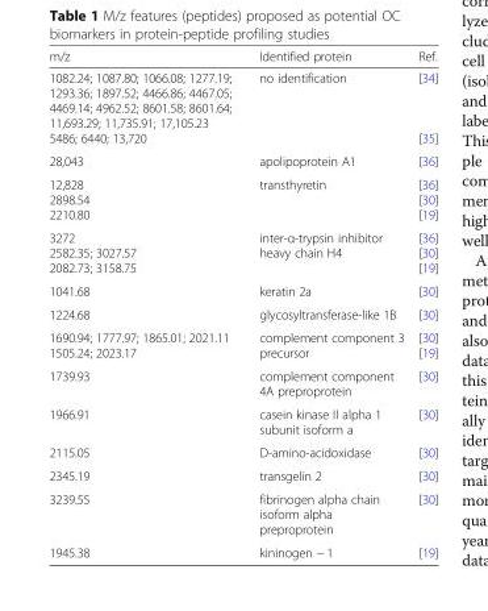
<table><thead><tr><td>m/z</td><td>Identified protein</td><td>Ref.</td></tr></thead><tbody><tr><td>1082.24; 1087.80; 1066.08; 1277.19; 1293.36; 1897.52; 4466.86; 4467.05; 4469.14; 4962.52; 8601.58; 8601.64; 11,693.29; 11,735.91; 17,105.23 5486; 6440; 13,720</td><td>no identification</td><td>[34] [35]</td></tr><tr><td>28,043</td><td>apolipoprotein A1</td><td>[36]</td></tr><tr><td>12,828 2898.54 2210.80</td><td>transthyretin</td><td>[36] [30] [19]</td></tr><tr><td>3272 2582.35; 3027.57 2082.73; 3158.75</td><td>inter-α-trypsin inhibitor heavy chain H4</td><td>[36] [30] [19]</td></tr><tr><td>1041.68</td><td>keratin 2a</td><td>[30]</td></tr><tr><td>1224.68</td><td>glycosyltransferase-like 1B</td><td>[30]</td></tr><tr><td>1690.94; 1777.97; 1865.01; 2021.11 1505.24; 2023.17</td><td>complement component 3 precursor</td><td>[30] [19]</td></tr><tr><td>1739.93</td><td>complement component 4A preproprotein</td><td>[30]</td></tr><tr><td>1966.91</td><td>casein kinase II alpha 1 subunit isoform a</td><td>[30]</td></tr><tr><td>2115.05</td><td>D-amino-acidoxidase</td><td>[30]</td></tr><tr><td>2345.19</td><td>transgelin 2</td><td>[30]</td></tr><tr><td>3239.55</td><td>fibrinogen alpha chain isoform alpha preproprotein</td><td>[30]</td></tr><tr><td>1945.38</td><td>kininogen − 1</td><td>[19]</td></tr></tbody></table>